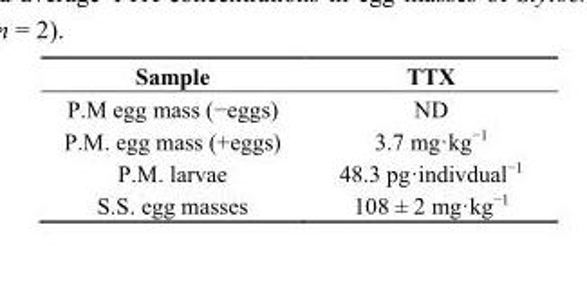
<table><thead><tr><td>Sample</td><td>TTX</td></tr></thead><tbody><tr><td>P.M egg mass (−eggs)</td><td>ND</td></tr><tr><td>P.M. egg mass (+eggs)</td><td>3.7 mg·kg<sup>−1</sup></td></tr><tr><td>P.M. larvae</td><td>48.3 pg·indivdual<sup>−1</sup></td></tr><tr><td>S.S. egg masses</td><td>108 ± 2 mg·kg<sup>−1</sup></td></tr></tbody></table>